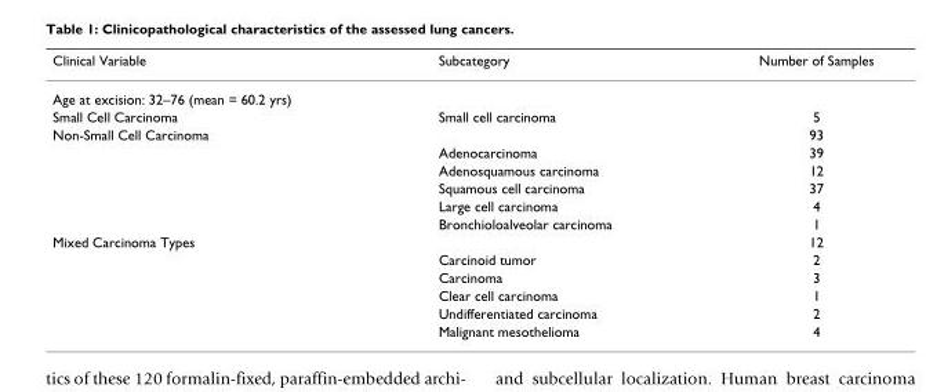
<table><thead><tr><td>Clinical Variable</td><td>Subcategory</td><td>Number of Samples</td></tr></thead><tbody><tr><td colspan="3">Age at excision: 32–76 (mean = 60.2 yrs)</td></tr><tr><td>Small Cell Carcinoma</td><td>Small cell carcinoma</td><td>5</td></tr><tr><td rowspan="6">Non-Small Cell Carcinoma</td><td></td><td>93</td></tr><tr><td>Adenocarcinoma</td><td>39</td></tr><tr><td>Adenosquamous carcinoma</td><td>12</td></tr><tr><td>Squamous cell carcinoma</td><td>37</td></tr><tr><td>Large cell carcinoma</td><td>4</td></tr><tr><td>Bronchioloalveolar carcinoma</td><td>1</td></tr><tr><td rowspan="6">Mixed Carcinoma Types</td><td></td><td>12</td></tr><tr><td>Carcinoid tumor</td><td>2</td></tr><tr><td>Carcinoma</td><td>3</td></tr><tr><td>Clear cell carcinoma</td><td>1</td></tr><tr><td>Undifferentiated carcinoma</td><td>2</td></tr><tr><td>Malignant mesothelioma</td><td>4</td></tr></tbody></table>